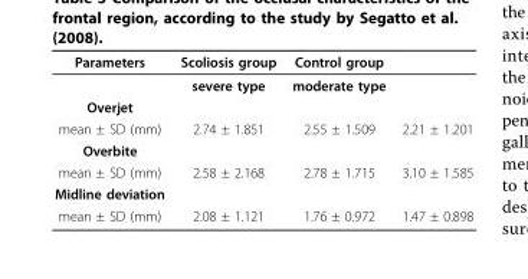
<table><thead><tr><td>Parameters</td><td>Scoliosis group</td><td>Control group</td><td></td></tr></thead><tbody><tr><td></td><td>severe type</td><td>moderate type</td><td></td></tr><tr><td colspan="4">Overjet</td></tr><tr><td>mean ± SD (mm)</td><td>2.74 ± 1.851</td><td>2.55 ± 1.509</td><td>2.21 ± 1.201</td></tr><tr><td colspan="4">Overbite</td></tr><tr><td>mean ± SD (mm)</td><td>2.58 ± 2.168</td><td>2.78 ± 1.715</td><td>3.10 ± 1.585</td></tr><tr><td colspan="4">Midline deviation</td></tr><tr><td>mean ± SD (mm)</td><td>2.08 ± 1.121</td><td>1.76 ± 0.972</td><td>1.47 ± 0.898</td></tr></tbody></table>